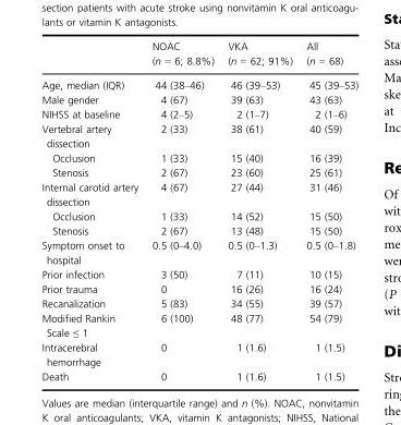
<table><thead><tr><td></td><td>NOAC (n = 6; 8.8%)</td><td>VKA (n = 62; 91%)</td><td>All (n = 68)</td></tr></thead><tbody><tr><td>Age, median (IQR)</td><td>44 (38–46)</td><td>46 (39–53)</td><td>45 (39–53)</td></tr><tr><td>Male gender</td><td>4 (67)</td><td>39 (63)</td><td>43 (63)</td></tr><tr><td>NIHSS at baseline</td><td>4 (2–5)</td><td>2 (1–7)</td><td>2 (1–6)</td></tr><tr><td>Vertebral artery dissection</td><td>2 (33)</td><td>38 (61)</td><td>40 (59)</td></tr><tr><td>Occlusion</td><td>1 (33)</td><td>15 (40)</td><td>16 (39)</td></tr><tr><td>Stenosis</td><td>2 (67)</td><td>23 (60)</td><td>25 (61)</td></tr><tr><td>Internal carotid artery dissection</td><td>4 (67)</td><td>27 (44)</td><td>31 (46)</td></tr><tr><td>Occlusion</td><td>1 (33)</td><td>14 (52)</td><td>15 (50)</td></tr><tr><td>Stenosis</td><td>2 (67)</td><td>13 (48)</td><td>15 (50)</td></tr><tr><td>Symptom onset to hospital</td><td>0.5 (0–4.0)</td><td>0.5 (0–1.3)</td><td>0.5 (0–1.8)</td></tr><tr><td>Prior infection</td><td>3 (50)</td><td>7 (11)</td><td>10 (15)</td></tr><tr><td>Prior trauma</td><td>0</td><td>16 (26)</td><td>16 (24)</td></tr><tr><td>Recanalization</td><td>5 (83)</td><td>34 (55)</td><td>39 (57)</td></tr><tr><td>Modified Rankin Scale ≤ 1</td><td>6 (100)</td><td>48 (77)</td><td>54 (79)</td></tr><tr><td>Intracerebral hemorrhage</td><td>0</td><td>1 (1.6)</td><td>1 (1.5)</td></tr><tr><td>Death</td><td>0</td><td>1 (1.6)</td><td>1 (1.5)</td></tr></tbody></table>